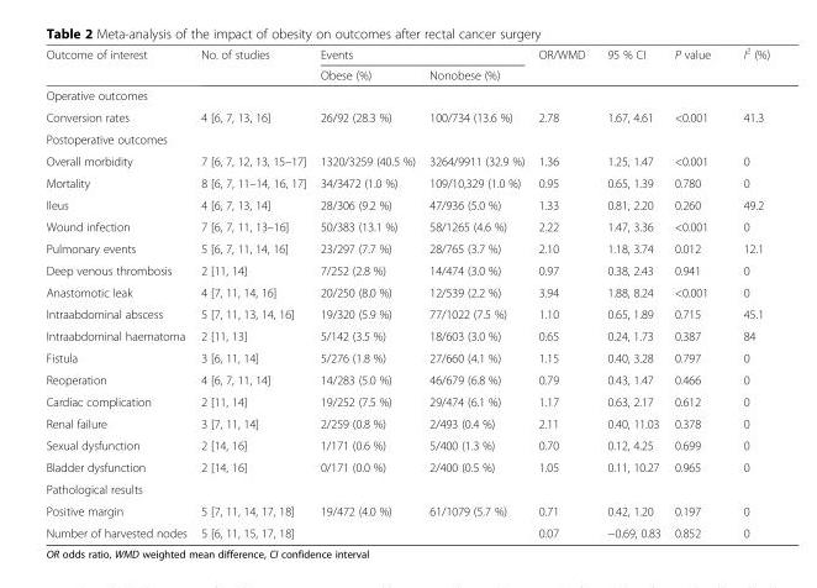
<table><thead><tr><td rowspan="2">Outcome of interest</td><td rowspan="2">No. of studies</td><td colspan="2">Events</td><td rowspan="2">OR/WMD</td><td rowspan="2">95 % CI</td><td rowspan="2">P value</td><td rowspan="2">I<sup>2</sup> (%)</td></tr><tr><td>Obese (%)</td><td>Nonobese (%)</td></tr></thead><tbody><tr><td colspan="8">Operative outcomes</td></tr><tr><td>Conversion rates</td><td>4 [6, 7, 13, 16]</td><td>26/92 (28.3 %)</td><td>100/734 (13.6 %)</td><td>2.78</td><td>1.67, 4.61</td><td>&lt;0.001</td><td>41.3</td></tr><tr><td colspan="8">Postoperative outcomes</td></tr><tr><td>Overall morbidity</td><td>7 [6, 7, 12, 13, 15–17]</td><td>1320/3259 (40.5 %)</td><td>3264/9911 (32.9 %)</td><td>1.36</td><td>1.25, 1.47</td><td>&lt;0.001</td><td>0</td></tr><tr><td>Mortality</td><td>8 [6, 7, 11–14, 16, 17]</td><td>34/3472 (1.0 %)</td><td>109/10,329 (1.0 %)</td><td>0.95</td><td>0.65, 1.39</td><td>0.780</td><td>0</td></tr><tr><td>Ileus</td><td>4 [6, 7, 13, 14]</td><td>28/306 (9.2 %)</td><td>47/936 (5.0 %)</td><td>1.33</td><td>0.81, 2.20</td><td>0.260</td><td>49.2</td></tr><tr><td>Wound infection</td><td>7 [6, 7, 11, 13–16]</td><td>50/383 (13.1 %)</td><td>58/1265 (4.6 %)</td><td>2.22</td><td>1.47, 3.36</td><td>&lt;0.001</td><td>0</td></tr><tr><td>Pulmonary events</td><td>5 [6, 7, 11, 14, 16]</td><td>23/297 (7.7 %)</td><td>28/765 (3.7 %)</td><td>2.10</td><td>1.18, 3.74</td><td>0.012</td><td>12.1</td></tr><tr><td>Deep venous thrombosis</td><td>2 [11, 14]</td><td>7/252 (2.8 %)</td><td>14/474 (3.0 %)</td><td>0.97</td><td>0.38, 2.43</td><td>0.941</td><td>0</td></tr><tr><td>Anastomotic leak</td><td>4 [7, 11, 14, 16]</td><td>20/250 (8.0 %)</td><td>12/539 (2.2 %)</td><td>3.94</td><td>1.88, 8.24</td><td>&lt;0.001</td><td>0</td></tr><tr><td>Intraabdominal abscess</td><td>5 [7, 11, 13, 14, 16]</td><td>19/320 (5.9 %)</td><td>77/1022 (7.5 %)</td><td>1.10</td><td>0.65, 1.89</td><td>0.715</td><td>45.1</td></tr><tr><td>Intraabdominal haematoma</td><td>2 [11, 13]</td><td>5/142 (3.5 %)</td><td>18/603 (3.0 %)</td><td>0.65</td><td>0.24, 1.73</td><td>0.387</td><td>84</td></tr><tr><td>Fistula</td><td>3 [6, 11, 14]</td><td>5/276 (1.8 %)</td><td>27/660 (4.1 %)</td><td>1.15</td><td>0.40, 3.28</td><td>0.797</td><td>0</td></tr><tr><td>Reoperation</td><td>4 [6, 7, 11, 14]</td><td>14/283 (5.0 %)</td><td>46/679 (6.8 %)</td><td>0.79</td><td>0.43, 1.47</td><td>0.466</td><td>0</td></tr><tr><td>Cardiac complication</td><td>2 [11, 14]</td><td>19/252 (7.5 %)</td><td>29/474 (6.1 %)</td><td>1.17</td><td>0.63, 2.17</td><td>0.612</td><td>0</td></tr><tr><td>Renal failure</td><td>3 [7, 11, 14]</td><td>2/259 (0.8 %)</td><td>2/493 (0.4 %)</td><td>2.11</td><td>0.40, 11.03</td><td>0.378</td><td>0</td></tr><tr><td>Sexual dysfunction</td><td>2 [14, 16]</td><td>1/171 (0.6 %)</td><td>5/400 (1.3 %)</td><td>0.70</td><td>0.12, 4.25</td><td>0.699</td><td>0</td></tr><tr><td>Bladder dysfunction</td><td>2 [14, 16]</td><td>0/171 (0.0 %)</td><td>2/400 (0.5 %)</td><td>1.05</td><td>0.11, 10.27</td><td>0.965</td><td>0</td></tr><tr><td colspan="8">Pathological results</td></tr><tr><td>Positive margin</td><td>5 [7, 11, 14, 17, 18]</td><td>19/472 (4.0 %)</td><td>61/1079 (5.7 %)</td><td>0.71</td><td>0.42, 1.20</td><td>0.197</td><td>0</td></tr><tr><td>Number of harvested nodes</td><td>5 [6, 11, 15, 17, 18]</td><td></td><td></td><td>0.07</td><td>−0.69, 0.83</td><td>0.852</td><td>0</td></tr></tbody></table>